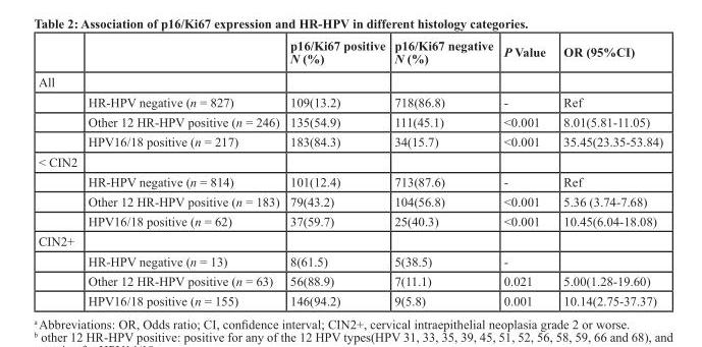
<table><thead><tr><td></td><td></td><td>p16/Ki67 positive N (%)</td><td>p16/Ki67 negative N (%)</td><td>P Value</td><td>OR (95%CI)</td></tr></thead><tbody><tr><td colspan="6">All</td></tr><tr><td></td><td>HR-HPV negative (n = 827)</td><td>109(13.2)</td><td>718(86.8)</td><td>-</td><td>Ref</td></tr><tr><td></td><td>Other 12 HR-HPV positive (n = 246)</td><td>135(54.9)</td><td>111(45.1)</td><td>&lt;0.001</td><td>8.01(5.81-11.05)</td></tr><tr><td></td><td>HPV16/18 positive (n = 217)</td><td>183(84.3)</td><td>34(15.7)</td><td>&lt;0.001</td><td>35.45(23.35-53.84)</td></tr><tr><td colspan="6">&lt; CIN2</td></tr><tr><td></td><td>HR-HPV negative (n = 814)</td><td>101(12.4)</td><td>713(87.6)</td><td>-</td><td>Ref</td></tr><tr><td></td><td>Other 12 HR-HPV positive (n = 183)</td><td>79(43.2)</td><td>104(56.8)</td><td>&lt;0.001</td><td>5.36 (3.74-7.68)</td></tr><tr><td></td><td>HPV16/18 positive (n = 62)</td><td>37(59.7)</td><td>25(40.3)</td><td>&lt;0.001</td><td>10.45(6.04-18.08)</td></tr><tr><td colspan="6">CIN2+</td></tr><tr><td></td><td>HR-HPV negative (n = 13)</td><td>8(61.5)</td><td>5(38.5)</td><td>-</td><td></td></tr><tr><td></td><td>Other 12 HR-HPV positive (n = 63)</td><td>56(88.9)</td><td>7(11.1)</td><td>0.021</td><td>5.00(1.28-19.60)</td></tr><tr><td></td><td>HPV16/18 positive (n = 155)</td><td>146(94.2)</td><td>9(5.8)</td><td>0.001</td><td>10.14(2.75-37.37)</td></tr></tbody></table>